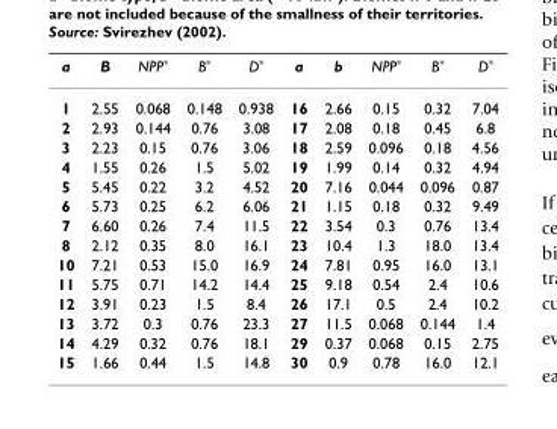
<table><thead><tr><td>a</td><td>B</td><td>NPP*</td><td>B*</td><td>D*</td><td>a</td><td>b</td><td>NPP*</td><td>B*</td><td>D*</td></tr></thead><tbody><tr><td>1</td><td>2.55</td><td>0.068</td><td>0.148</td><td>0.938</td><td>16</td><td>2.66</td><td>0.15</td><td>0.32</td><td>7.04</td></tr><tr><td>2</td><td>2.93</td><td>0.144</td><td>0.76</td><td>3.08</td><td>17</td><td>2.08</td><td>0.18</td><td>0.45</td><td>6.8</td></tr><tr><td>3</td><td>2.23</td><td>0.15</td><td>0.76</td><td>3.06</td><td>18</td><td>2.59</td><td>0.096</td><td>0.18</td><td>4.56</td></tr><tr><td>4</td><td>1.55</td><td>0.26</td><td>1.5</td><td>5.02</td><td>19</td><td>1.99</td><td>0.14</td><td>0.32</td><td>4.94</td></tr><tr><td>5</td><td>5.45</td><td>0.22</td><td>3.2</td><td>4.52</td><td>20</td><td>7.16</td><td>0.044</td><td>0.096</td><td>0.87</td></tr><tr><td>6</td><td>5.73</td><td>0.25</td><td>6.2</td><td>6.06</td><td>21</td><td>1.15</td><td>0.18</td><td>0.32</td><td>9.49</td></tr><tr><td>7</td><td>6.60</td><td>0.26</td><td>7.4</td><td>11.5</td><td>22</td><td>3.54</td><td>0.3</td><td>0.76</td><td>13.4</td></tr><tr><td>8</td><td>2.12</td><td>0.35</td><td>8.0</td><td>16.1</td><td>23</td><td>10.4</td><td>1.3</td><td>18.0</td><td>13.4</td></tr><tr><td>10</td><td>7.21</td><td>0.53</td><td>15.0</td><td>16.9</td><td>24</td><td>7.81</td><td>0.95</td><td>16.0</td><td>13.1</td></tr><tr><td>11</td><td>5.75</td><td>0.71</td><td>14.2</td><td>14.4</td><td>25</td><td>9.18</td><td>0.54</td><td>2.4</td><td>10.6</td></tr><tr><td>12</td><td>3.91</td><td>0.23</td><td>1.5</td><td>8.4</td><td>26</td><td>17.1</td><td>0.5</td><td>2.4</td><td>10.2</td></tr><tr><td>13</td><td>3.72</td><td>0.3</td><td>0.76</td><td>23.3</td><td>27</td><td>11.5</td><td>0.068</td><td>0.144</td><td>1.4</td></tr><tr><td>14</td><td>4.29</td><td>0.32</td><td>0.76</td><td>18.1</td><td>29</td><td>0.37</td><td>0.068</td><td>0.15</td><td>2.75</td></tr><tr><td>15</td><td>1.66</td><td>0.44</td><td>1.5</td><td>14.8</td><td>30</td><td>0.9</td><td>0.78</td><td>16.0</td><td>12.1</td></tr></tbody></table>